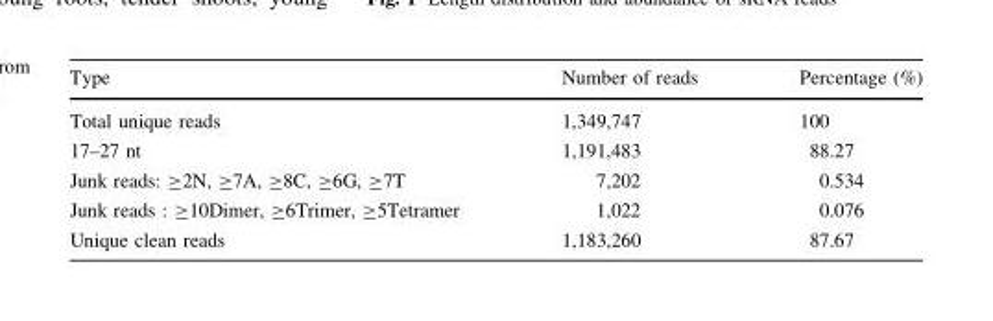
<table><thead><tr><td>Type</td><td>Number of reads</td><td>Percentage (%)</td></tr></thead><tbody><tr><td>Total unique reads</td><td>1,349,747</td><td>100</td></tr><tr><td>17–27 nt</td><td>1,191,483</td><td>88.27</td></tr><tr><td>Junk reads: ≥2N, ≥7A, ≥8C, ≥6G, ≥7T</td><td>7,202</td><td>0.534</td></tr><tr><td>Junk reads : ≥10Dimer, ≥6Trimer, ≥5Tetramer</td><td>1,022</td><td>0.076</td></tr><tr><td>Unique clean reads</td><td>1,183,260</td><td>87.67</td></tr></tbody></table>